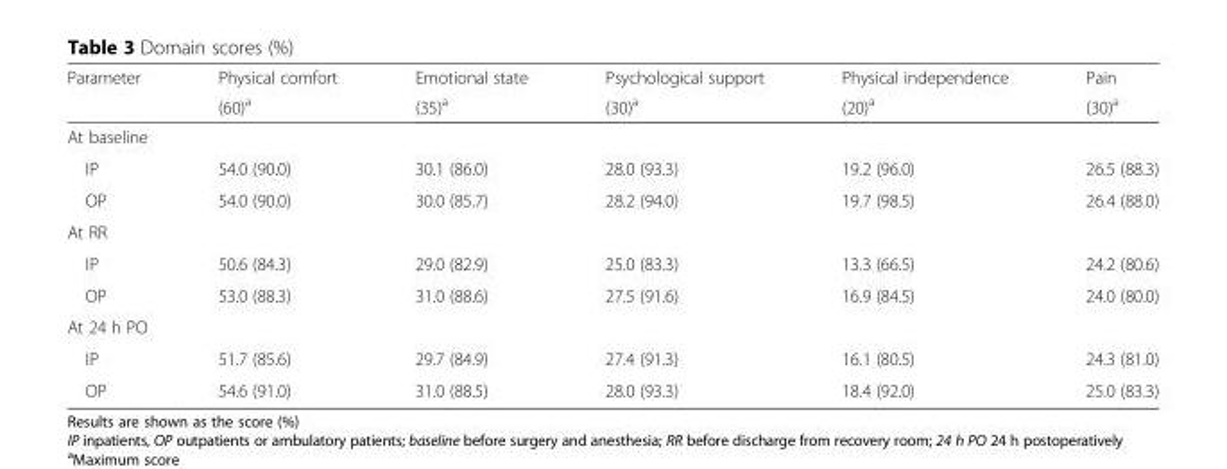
<table><thead><tr><td rowspan="2">Parameter</td><td rowspan="2">Physical comfort (60)<sup>a</sup></td><td rowspan="2">Emotional state (35)<sup>a</sup></td><td rowspan="2">Psychological support (30)<sup>a</sup></td><td rowspan="2">Physical independence (20)<sup>a</sup></td><td rowspan="2">Pain (30)<sup>a</sup></td></tr><tr></tr></thead><tbody><tr><td colspan="6">At baseline</td></tr><tr><td>IP</td><td>54.0 (90.0)</td><td>30.1 (86.0)</td><td>28.0 (93.3)</td><td>19.2 (96.0)</td><td>26.5 (88.3)</td></tr><tr><td>OP</td><td>54.0 (90.0)</td><td>30.0 (85.7)</td><td>28.2 (94.0)</td><td>19.7 (98.5)</td><td>26.4 (88.0)</td></tr><tr><td colspan="6">At RR</td></tr><tr><td>IP</td><td>50.6 (84.3)</td><td>29.0 (82.9)</td><td>25.0 (83.3)</td><td>13.3 (66.5)</td><td>24.2 (80.6)</td></tr><tr><td>OP</td><td>53.0 (88.3)</td><td>31.0 (88.6)</td><td>27.5 (91.6)</td><td>16.9 (84.5)</td><td>24.0 (80.0)</td></tr><tr><td colspan="6">At 24 h PO</td></tr><tr><td>IP</td><td>51.7 (85.6)</td><td>29.7 (84.9)</td><td>27.4 (91.3)</td><td>16.1 (80.5)</td><td>24.3 (81.0)</td></tr><tr><td>OP</td><td>54.6 (91.0)</td><td>31.0 (88.5)</td><td>28.0 (93.3)</td><td>18.4 (92.0)</td><td>25.0 (83.3)</td></tr></tbody></table>